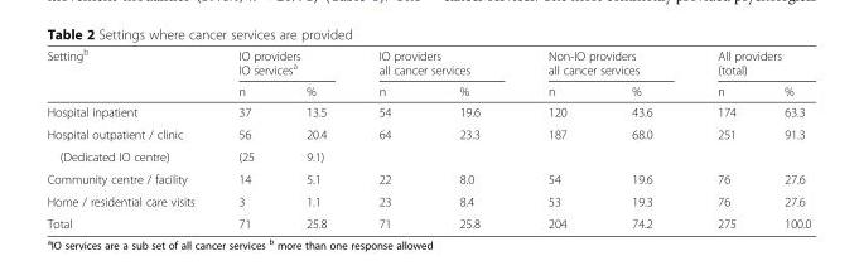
<table><thead><tr><td rowspan="2">Setting<sup>b</sup></td><td colspan="2">IO providers IO services<sup>a</sup></td><td colspan="2">IO providers all cancer services</td><td colspan="2">Non-IO providers all cancer services</td><td colspan="2">All providers (total)</td></tr><tr><td>n</td><td>%</td><td>n</td><td>%</td><td>n</td><td>%</td><td>n</td><td>%</td></tr></thead><tbody><tr><td>Hospital inpatient</td><td>37</td><td>13.5</td><td>54</td><td>19.6</td><td>120</td><td>43.6</td><td>174</td><td>63.3</td></tr><tr><td>Hospital outpatient / clinic</td><td>56</td><td>20.4</td><td>64</td><td>23.3</td><td>187</td><td>68.0</td><td>251</td><td>91.3</td></tr><tr><td>(Dedicated IO centre)</td><td>(25</td><td>9.1)</td><td></td><td></td><td></td><td></td><td></td><td></td></tr><tr><td>Community centre / facility</td><td>14</td><td>5.1</td><td>22</td><td>8.0</td><td>54</td><td>19.6</td><td>76</td><td>27.6</td></tr><tr><td>Home / residential care visits</td><td>3</td><td>1.1</td><td>23</td><td>8.4</td><td>53</td><td>19.3</td><td>76</td><td>27.6</td></tr><tr><td>Total</td><td>71</td><td>25.8</td><td>71</td><td>25.8</td><td>204</td><td>74.2</td><td>275</td><td>100.0</td></tr></tbody></table>